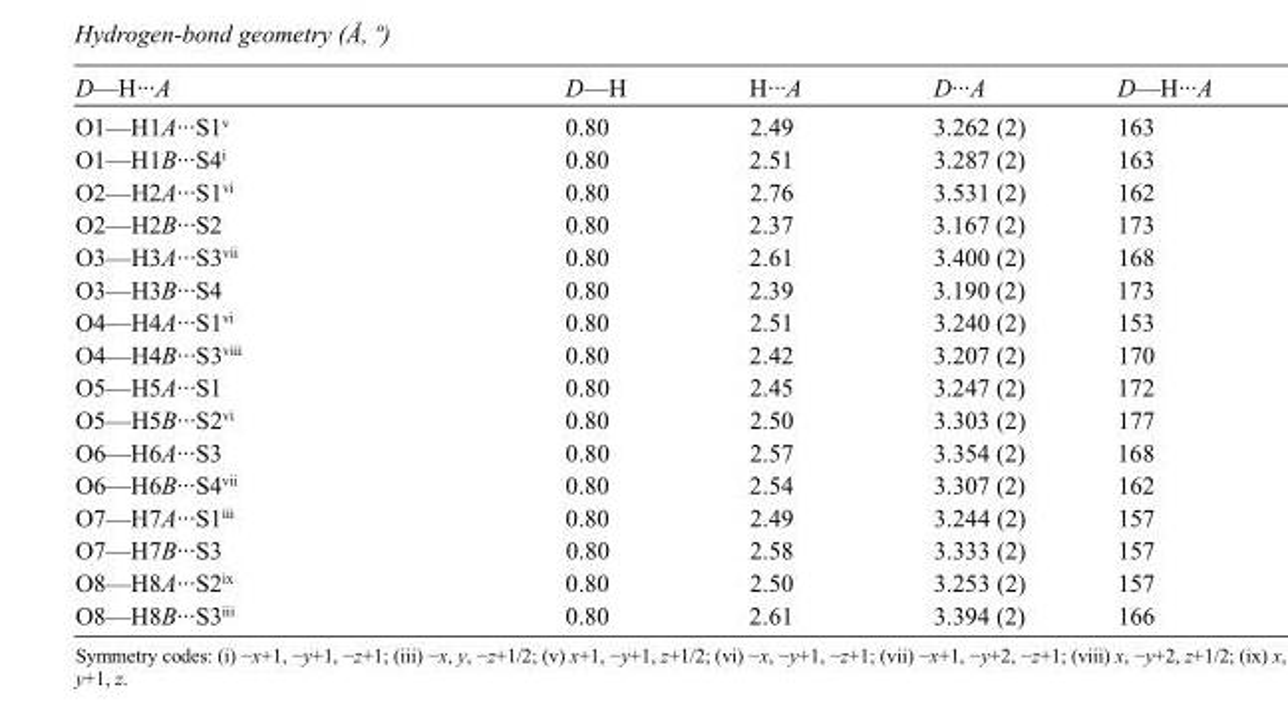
<table><tbody><tr><td>D—H···A</td><td>D—H</td><td>H···A</td><td>D···A</td><td>D—H···A</td></tr><tr><td>O1—H1A···S1<sup>v</sup></td><td>0.80</td><td>2.49</td><td>3.262 (2)</td><td>163</td></tr><tr><td>O1—H1B···S4<sup>i</sup></td><td>0.80</td><td>2.51</td><td>3.287 (2)</td><td>163</td></tr><tr><td>O2—H2A···S1<sup>vi</sup></td><td>0.80</td><td>2.76</td><td>3.531 (2)</td><td>162</td></tr><tr><td>O2—H2B···S2</td><td>0.80</td><td>2.37</td><td>3.167 (2)</td><td>173</td></tr><tr><td>O3—H3A···S3<sup>vii</sup></td><td>0.80</td><td>2.61</td><td>3.400 (2)</td><td>168</td></tr><tr><td>O3—H3B···S4</td><td>0.80</td><td>2.39</td><td>3.190 (2)</td><td>173</td></tr><tr><td>O4—H4A···S1<sup>vi</sup></td><td>0.80</td><td>2.51</td><td>3.240 (2)</td><td>153</td></tr><tr><td>O4—H4B···S3<sup>viii</sup></td><td>0.80</td><td>2.42</td><td>3.207 (2)</td><td>170</td></tr><tr><td>O5—H5A···S1</td><td>0.80</td><td>2.45</td><td>3.247 (2)</td><td>172</td></tr><tr><td>O5—H5B···S2<sup>vi</sup></td><td>0.80</td><td>2.50</td><td>3.303 (2)</td><td>177</td></tr><tr><td>O6—H6A···S3</td><td>0.80</td><td>2.57</td><td>3.354 (2)</td><td>168</td></tr><tr><td>O6—H6B···S4<sup>vii</sup></td><td>0.80</td><td>2.54</td><td>3.307 (2)</td><td>162</td></tr><tr><td>O7—H7A···S1<sup>iii</sup></td><td>0.80</td><td>2.49</td><td>3.244 (2)</td><td>157</td></tr><tr><td>O7—H7B···S3</td><td>0.80</td><td>2.58</td><td>3.333 (2)</td><td>157</td></tr><tr><td>O8—H8A···S2<sup>ix</sup></td><td>0.80</td><td>2.50</td><td>3.253 (2)</td><td>157</td></tr><tr><td>O8—H8B···S3<sup>iii</sup></td><td>0.80</td><td>2.61</td><td>3.394 (2)</td><td>166</td></tr></tbody></table>